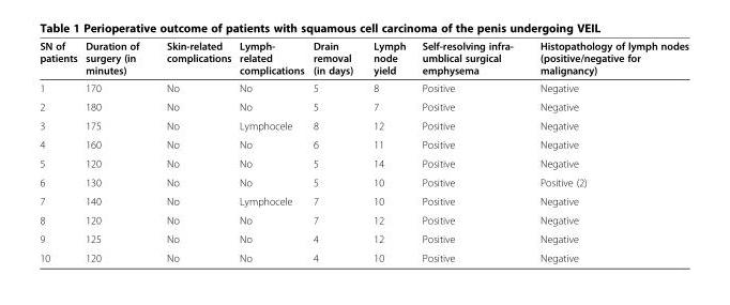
<table><thead><tr><td>SN of patients</td><td>Duration of surgery (in minutes)</td><td>Skin-related complications</td><td>Lymph- related complications</td><td>Drain removal (in days)</td><td>Lymph node yield</td><td>Self-resolving infra- umblical surgical emphysema</td><td>Histopathology of lymph nodes (positive/negative for malignancy)</td></tr></thead><tbody><tr><td>1</td><td>170</td><td>No</td><td>No</td><td>5</td><td>8</td><td>Positive</td><td>Negative</td></tr><tr><td>2</td><td>180</td><td>No</td><td>No</td><td>5</td><td>7</td><td>Positive</td><td>Negative</td></tr><tr><td>3</td><td>175</td><td>No</td><td>Lymphocele</td><td>8</td><td>12</td><td>Positive</td><td>Negative</td></tr><tr><td>4</td><td>160</td><td>No</td><td>No</td><td>6</td><td>11</td><td>Positive</td><td>Negative</td></tr><tr><td>5</td><td>120</td><td>No</td><td>No</td><td>5</td><td>14</td><td>Positive</td><td>Negative</td></tr><tr><td>6</td><td>130</td><td>No</td><td>No</td><td>5</td><td>10</td><td>Positive</td><td>Positive (2)</td></tr><tr><td>7</td><td>140</td><td>No</td><td>Lymphocele</td><td>7</td><td>10</td><td>Positive</td><td>Negative</td></tr><tr><td>8</td><td>120</td><td>No</td><td>No</td><td>7</td><td>12</td><td>Positive</td><td>Negative</td></tr><tr><td>9</td><td>125</td><td>No</td><td>No</td><td>4</td><td>12</td><td>Positive</td><td>Negative</td></tr><tr><td>10</td><td>120</td><td>No</td><td>No</td><td>4</td><td>10</td><td>Positive</td><td>Negative</td></tr></tbody></table>